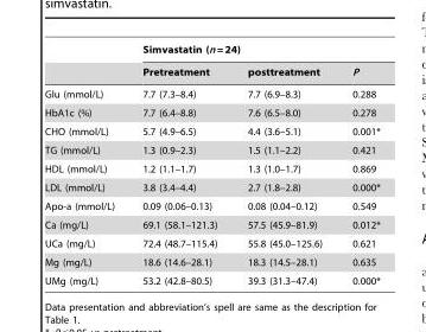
<table><thead><tr><td rowspan="2"></td><td colspan="3">Simvastatin (n = 24)</td></tr><tr><td>Pretreatment</td><td>posttreatment</td><td>P</td></tr></thead><tbody><tr><td>Glu (mmol/L)</td><td>7.7 (7.3–8.4)</td><td>7.7 (6.9–8.3)</td><td>0.288</td></tr><tr><td>HbA1c (%)</td><td>7.7 (6.4–8.8)</td><td>7.6 (6.5–8.0)</td><td>0.278</td></tr><tr><td>CHO (mmol/L)</td><td>5.7 (4.9–6.5)</td><td>4.4 (3.6–5.1)</td><td>0.001*</td></tr><tr><td>TG (mmol/L)</td><td>1.3 (0.9–2.3)</td><td>1.5 (1.1–2.2)</td><td>0.421</td></tr><tr><td>HDL (mmol/L)</td><td>1.2 (1.1–1.7)</td><td>1.3 (1.0–1.7)</td><td>0.869</td></tr><tr><td>LDL (mmol/L)</td><td>3.8 (3.4–4.4)</td><td>2.7 (1.8–2.8)</td><td>0.000*</td></tr><tr><td>Apo-a (mmol/L)</td><td>0.09 (0.06–0.13)</td><td>0.08 (0.04–0.12)</td><td>0.549</td></tr><tr><td>Ca (mg/L)</td><td>69.1 (58.1–121.3)</td><td>57.5 (45.9–81.9)</td><td>0.012*</td></tr><tr><td>UCa (mg/L)</td><td>72.4 (48.7–115.4)</td><td>55.8 (45.0–125.6)</td><td>0.621</td></tr><tr><td>Mg (mg/L)</td><td>18.6 (14.6–28.1)</td><td>18.3 (14.5–28.1)</td><td>0.635</td></tr><tr><td>UMg (mg/L)</td><td>53.2 (42.8–80.5)</td><td>39.3 (31.3–47.4)</td><td>0.000*</td></tr></tbody></table>